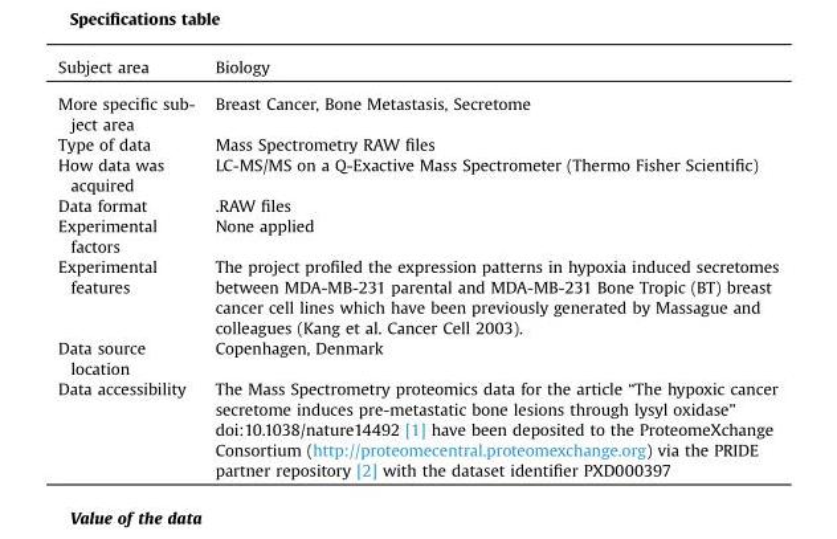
<table><thead><tr><td>Subject area</td><td>Biology</td></tr></thead><tbody><tr><td>More specific sub- ject area</td><td>Breast Cancer, Bone Metastasis, Secretome</td></tr><tr><td>Type of data</td><td>Mass Spectrometry RAW files</td></tr><tr><td>How data was acquired</td><td>LC-MS/MS on a Q-Exactive Mass Spectrometer (Thermo Fisher Scientific)</td></tr><tr><td>Data format</td><td>.RAW files</td></tr><tr><td>Experimental factors</td><td>None applied</td></tr><tr><td>Experimental features</td><td>The project profiled the expression patterns in hypoxia induced secretomes between MDA-MB-231 parental and MDA-MB-231 Bone Tropic (BT) breast cancer cell lines which have been previously generated by Massague and colleagues (Kang et al. Cancer Cell 2003).</td></tr><tr><td>Data source location</td><td>Copenhagen, Denmark</td></tr><tr><td>Data accessibility</td><td>The Mass Spectrometry proteomics data for the article “The hypoxic cancer secretome induces pre-metastatic bone lesions through lysyl oxidase” doi:10.1038/nature14492 [1] have been deposited to the ProteomeXchange Consortium (http://proteomecentral.proteomexchange.org) via the PRIDE partner repository [2] with the dataset identifier PXD000397</td></tr></tbody></table>